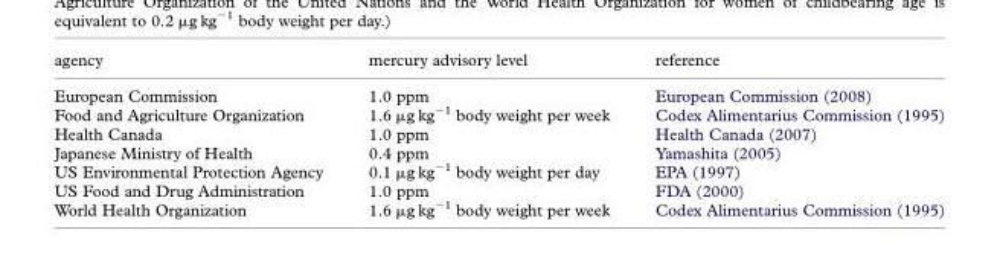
<table><thead><tr><td>agency</td><td>mercury advisory level</td><td>reference</td></tr></thead><tbody><tr><td>European Commission</td><td>1.0 ppm</td><td>European Commission (2008)</td></tr><tr><td>Food and Agriculture Organization</td><td>1.6 μg kg<sup>−1</sup> body weight per week</td><td>Codex Alimentarius Commission (1995)</td></tr><tr><td>Health Canada</td><td>1.0 ppm</td><td>Health Canada (2007)</td></tr><tr><td>Japanese Ministry of Health</td><td>0.4 ppm</td><td>Yamashita (2005)</td></tr><tr><td>US Environmental Protection Agency</td><td>0.1 μg kg<sup>−1</sup> body weight per day</td><td>EPA (1997)</td></tr><tr><td>US Food and Drug Administration</td><td>1.0 ppm</td><td>FDA (2000)</td></tr><tr><td>World Health Organization</td><td>1.6 μg kg<sup>−1</sup> body weight per week</td><td>Codex Alimentarius Commission (1995)</td></tr></tbody></table>